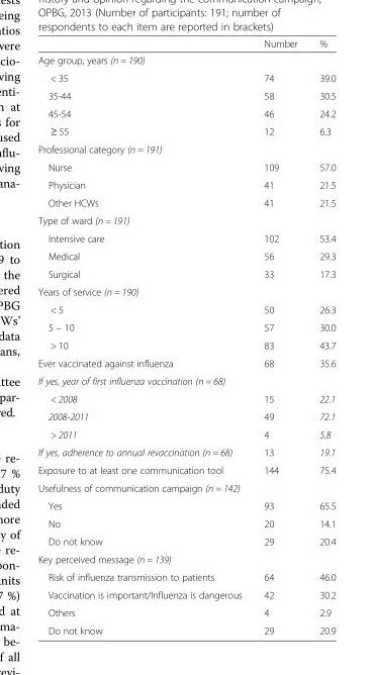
<table><thead><tr><td></td><td>Number</td><td>%</td></tr></thead><tbody><tr><td colspan="3">Age group, years (n = 190)</td></tr><tr><td>&lt; 35</td><td>74</td><td>39.0</td></tr><tr><td>35-44</td><td>58</td><td>30.5</td></tr><tr><td>45-54</td><td>46</td><td>24.2</td></tr><tr><td>≥ 55</td><td>12</td><td>6.3</td></tr><tr><td colspan="3">Professional category (n = 191)</td></tr><tr><td>Nurse</td><td>109</td><td>57.0</td></tr><tr><td>Physician</td><td>41</td><td>21.5</td></tr><tr><td>Other HCWs</td><td>41</td><td>21.5</td></tr><tr><td colspan="3">Type of ward (n = 191)</td></tr><tr><td>Intensive care</td><td>102</td><td>53.4</td></tr><tr><td>Medical</td><td>56</td><td>29.3</td></tr><tr><td>Surgical</td><td>33</td><td>17.3</td></tr><tr><td colspan="3">Years of service (n = 190)</td></tr><tr><td>&lt; 5</td><td>50</td><td>26.3</td></tr><tr><td>5 – 10</td><td>57</td><td>30.0</td></tr><tr><td>&gt; 10</td><td>83</td><td>43.7</td></tr><tr><td>Ever vaccinated against influenza</td><td>68</td><td>35.6</td></tr><tr><td colspan="3">If yes, year of first influenza vaccination (n = 68)</td></tr><tr><td>&lt; 2008</td><td>15</td><td>22.1</td></tr><tr><td>2008-2011</td><td>49</td><td>72.1</td></tr><tr><td>&gt; 2011</td><td>4</td><td>5.8</td></tr><tr><td>If yes, adherence to annual revaccination (n = 68)</td><td>13</td><td>19.1</td></tr><tr><td>Exposure to at least one communication tool</td><td>144</td><td>75.4</td></tr><tr><td colspan="3">Usefulness of communication campaign (n = 142)</td></tr><tr><td>Yes</td><td>93</td><td>65.5</td></tr><tr><td>No</td><td>20</td><td>14.1</td></tr><tr><td>Do not know</td><td>29</td><td>20.4</td></tr><tr><td colspan="3">Key perceived message (n = 139)</td></tr><tr><td>Risk of influenza transmission to patients</td><td>64</td><td>46.0</td></tr><tr><td>Vaccination is important/Influenza is dangerous</td><td>42</td><td>30.2</td></tr><tr><td>Others</td><td>4</td><td>2.9</td></tr><tr><td>Do not know</td><td>29</td><td>20.9</td></tr></tbody></table>